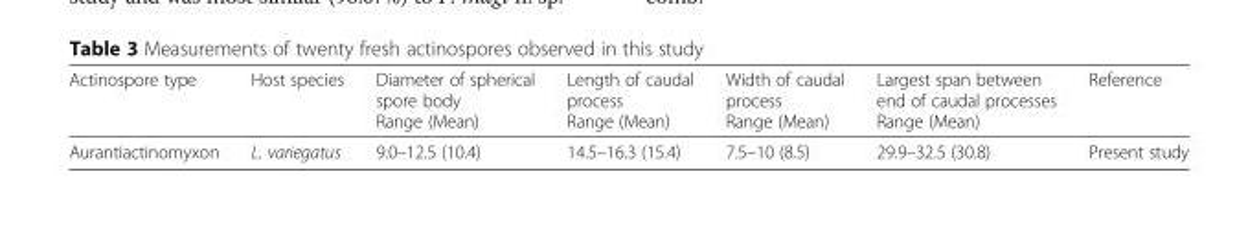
<table><thead><tr><td>Actinospore type</td><td>Host species</td><td>Diameter of spherical spore body Range (Mean)</td><td>Length of caudal process Range (Mean)</td><td>Width of caudal process Range (Mean)</td><td>Largest span between end of caudal processes Range (Mean)</td><td>Reference</td></tr></thead><tbody><tr><td>Aurantiactinomyxon</td><td>L. variegatus</td><td>9.0–12.5 (10.4)</td><td>14.5–16.3 (15.4)</td><td>7.5–10 (8.5)</td><td>29.9–32.5 (30.8)</td><td>Present study</td></tr></tbody></table>